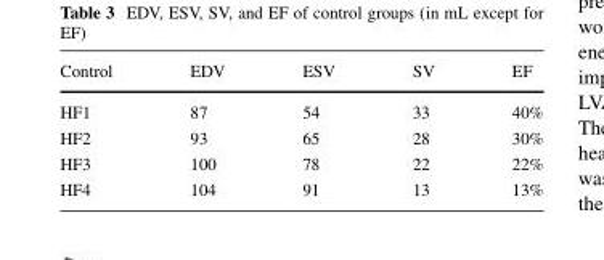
<table><thead><tr><td>Control</td><td>EDV</td><td>ESV</td><td>SV</td><td>EF</td></tr></thead><tbody><tr><td>HF1</td><td>87</td><td>54</td><td>33</td><td>40%</td></tr><tr><td>HF2</td><td>93</td><td>65</td><td>28</td><td>30%</td></tr><tr><td>HF3</td><td>100</td><td>78</td><td>22</td><td>22%</td></tr><tr><td>HF4</td><td>104</td><td>91</td><td>13</td><td>13%</td></tr></tbody></table>